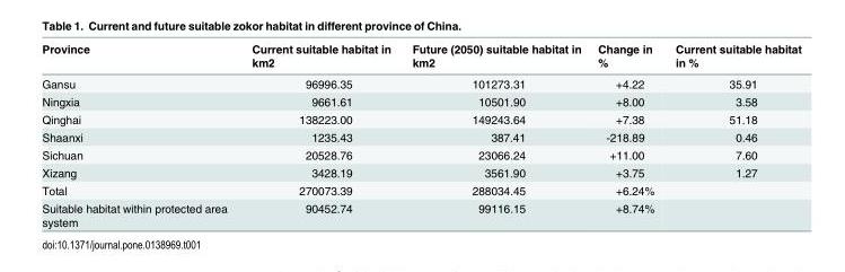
<table><thead><tr><td>Province</td><td>Current suitable habitat in km2</td><td>Future (2050) suitable habitat in km2</td><td>Change in %</td><td>Current suitable habitat in %</td></tr></thead><tbody><tr><td>Gansu</td><td>96996.35</td><td>101273.31</td><td>+4.22</td><td>35.91</td></tr><tr><td>Ningxia</td><td>9661.61</td><td>10501.90</td><td>+8.00</td><td>3.58</td></tr><tr><td>Qinghai</td><td>138223.00</td><td>149243.64</td><td>+7.38</td><td>51.18</td></tr><tr><td>Shaanxi</td><td>1235.43</td><td>387.41</td><td>-218.89</td><td>0.46</td></tr><tr><td>Sichuan</td><td>20528.76</td><td>23066.24</td><td>+11.00</td><td>7.60</td></tr><tr><td>Xizang</td><td>3428.19</td><td>3561.90</td><td>+3.75</td><td>1.27</td></tr><tr><td>Total</td><td>270073.39</td><td>288034.45</td><td>+6.24%</td><td></td></tr><tr><td>Suitable habitat within protected area system</td><td>90452.74</td><td>99116.15</td><td>+8.74%</td><td></td></tr></tbody></table>